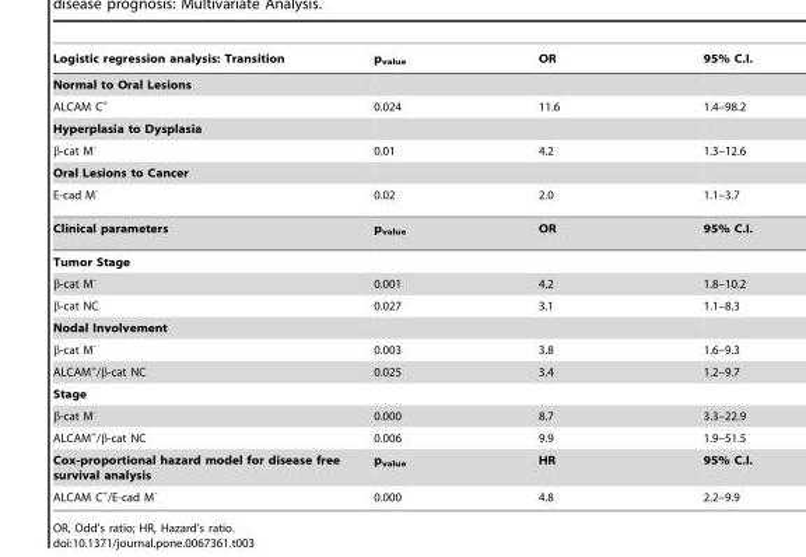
<table><thead><tr><td>Logistic regression analysis: Transition</td><td>p<sub>value</sub></td><td>OR</td><td>95% C.I.</td></tr></thead><tbody><tr><td colspan="4">Normal to Oral Lesions</td></tr><tr><td>ALCAM C<sup>+</sup></td><td>0.024</td><td>11.6</td><td>1.4–98.2</td></tr><tr><td colspan="4">Hyperplasia to Dysplasia</td></tr><tr><td>β-cat M<sup>-</sup></td><td>0.01</td><td>4.2</td><td>1.3–12.6</td></tr><tr><td colspan="4">Oral Lesions to Cancer</td></tr><tr><td>E-cad M<sup>-</sup></td><td>0.02</td><td>2.0</td><td>1.1–3.7</td></tr><tr><td>Clinical parameters</td><td>p<sub>value</sub></td><td>OR</td><td>95% C.I.</td></tr><tr><td colspan="4">Tumor Stage</td></tr><tr><td>β-cat M<sup>-</sup></td><td>0.001</td><td>4.2</td><td>1.8–10.2</td></tr><tr><td>β-cat NC</td><td>0.027</td><td>3.1</td><td>1.1–8.3</td></tr><tr><td colspan="4">Nodal Involvement</td></tr><tr><td>β-cat M<sup>-</sup></td><td>0.003</td><td>3.8</td><td>1.6–9.3</td></tr><tr><td>ALCAM<sup>+</sup>/β-cat NC</td><td>0.025</td><td>3.4</td><td>1.2–9.7</td></tr><tr><td colspan="4">Stage</td></tr><tr><td>β-cat M<sup>-</sup></td><td>0.000</td><td>8.7</td><td>3.3–22.9</td></tr><tr><td>ALCAM<sup>+</sup>/β-cat NC</td><td>0.006</td><td>9.9</td><td>1.9–51.5</td></tr><tr><td>Cox-proportional hazard model for disease free survival analysis</td><td>p<sub>value</sub></td><td>HR</td><td>95% C.I.</td></tr><tr><td>ALCAM C<sup>+</sup>/E-cad M<sup>-</sup></td><td>0.000</td><td>4.8</td><td>2.2–9.9</td></tr></tbody></table>